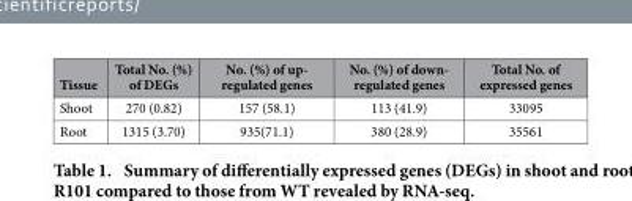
<table><thead><tr><td>Tissue</td><td>Total No. (%) of DEGs</td><td>No. (%) of up- regulated genes</td><td>No. (%) of down- regulated genes</td><td>Total No. of expressed genes</td></tr></thead><tbody><tr><td>Shoot</td><td>270 (0.82)</td><td>157 (58.1)</td><td>113 (41.9)</td><td>33095</td></tr><tr><td>Root</td><td>1315 (3.70)</td><td>935(71.1)</td><td>380 (28.9)</td><td>35561</td></tr></tbody></table>